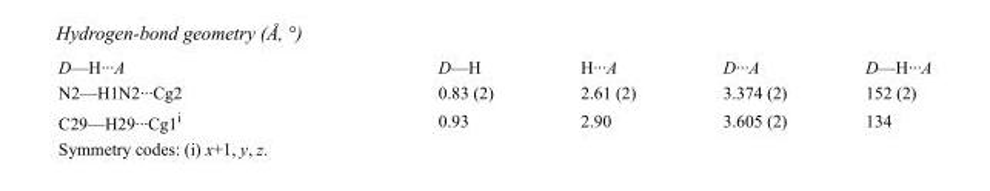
<table><tbody><tr><td>D—H···A</td><td>D—H</td><td>H···A</td><td>D···A</td><td>D—H···A</td></tr><tr><td>N2—H1N2···Cg2</td><td>0.83 (2)</td><td>2.61 (2)</td><td>3.374 (2)</td><td>152 (2)</td></tr><tr><td>C29—H29···Cg1<sup>i</sup></td><td>0.93</td><td>2.90</td><td>3.605 (2)</td><td>134</td></tr></tbody></table>